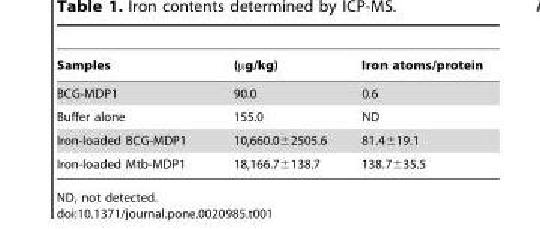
<table><thead><tr><td>Samples</td><td>(µg/kg)</td><td>Iron atoms/protein</td></tr></thead><tbody><tr><td>BCG-MDP1</td><td>90.0</td><td>0.6</td></tr><tr><td>Buffer alone</td><td>155.0</td><td>ND</td></tr><tr><td>Iron-loaded BCG-MDP1</td><td>10,660.0±2505.6</td><td>81.4±19.1</td></tr><tr><td>Iron-loaded Mtb-MDP1</td><td>18,166.7±138.7</td><td>138.7±35.5</td></tr></tbody></table>